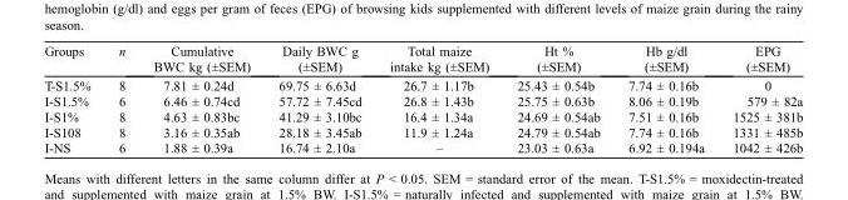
<table><thead><tr><td>Groups</td><td>n</td><td>Cumulative BWC kg (±SEM)</td><td>Daily BWC g (±SEM)</td><td>Total maize intake kg (±SEM)</td><td>Ht % (±SEM)</td><td>Hb g/dl (±SEM)</td><td>EPG (±SEM)</td></tr></thead><tbody><tr><td>T-S1.5%</td><td>8</td><td>7.81 ± 0.24d</td><td>69.75 ± 6.63d</td><td>26.7 ± 1.17b</td><td>25.43 ± 0.54b</td><td>7.74 ± 0.16b</td><td>0</td></tr><tr><td>I-S1.5%</td><td>6</td><td>6.46 ± 0.74cd</td><td>57.72 ± 7.45cd</td><td>26.8 ± 1.43b</td><td>25.75 ± 0.63b</td><td>8.06 ± 0.19b</td><td>579 ± 82a</td></tr><tr><td>I-S1%</td><td>8</td><td>4.63 ± 0.83bc</td><td>41.29 ± 3.10bc</td><td>16.4 ± 1.34a</td><td>24.69 ± 0.54ab</td><td>7.51 ± 0.16b</td><td>1525 ± 381b</td></tr><tr><td>I-S108</td><td>8</td><td>3.16 ± 0.35ab</td><td>28.18 ± 3.45ab</td><td>11.9 ± 1.24a</td><td>24.79 ± 0.54ab</td><td>7.74 ± 0.16b</td><td>1331 ± 485b</td></tr><tr><td>I-NS</td><td>6</td><td>1.88 ± 0.39a</td><td>16.74 ± 2.10a</td><td>–</td><td>23.03 ± 0.63a</td><td>6.92 ± 0.194a</td><td>1042 ± 426b</td></tr></tbody></table>